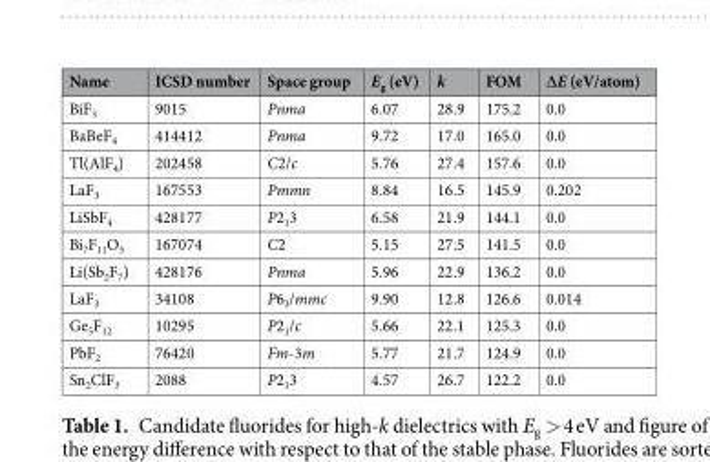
<table><thead><tr><td>Name</td><td>ICSD number</td><td>Space group</td><td>E<sub>g</sub> (eV)</td><td>k</td><td>FOM</td><td>∆E (eV/atom)</td></tr></thead><tbody><tr><td>BiF<sub>3</sub></td><td>9015</td><td>Pnma</td><td>6.07</td><td>28.9</td><td>175.2</td><td>0.0</td></tr><tr><td>BaBeF<sub>4</sub></td><td>414412</td><td>Pnma</td><td>9.72</td><td>17.0</td><td>165.0</td><td>0.0</td></tr><tr><td>Tl(AlF<sub>4</sub>)</td><td>202458</td><td>C2/c</td><td>5.76</td><td>27.4</td><td>157.6</td><td>0.0</td></tr><tr><td>LaF<sub>3</sub></td><td>167553</td><td>Pmmn</td><td>8.84</td><td>16.5</td><td>145.9</td><td>0.202</td></tr><tr><td>LiSbF<sub>4</sub></td><td>428177</td><td>P2<sub>1</sub>3</td><td>6.58</td><td>21.9</td><td>144.1</td><td>0.0</td></tr><tr><td>Bi<sub>7</sub>F<sub>11</sub>O<sub>5</sub></td><td>167074</td><td>C2</td><td>5.15</td><td>27.5</td><td>141.5</td><td>0.0</td></tr><tr><td>Li(Sb<sub>2</sub>F<sub>7</sub>)</td><td>428176</td><td>Pnma</td><td>5.96</td><td>22.9</td><td>136.2</td><td>0.0</td></tr><tr><td>LaF<sub>3</sub></td><td>34108</td><td>P6<sub>3</sub>/mmc</td><td>9.90</td><td>12.8</td><td>126.6</td><td>0.014</td></tr><tr><td>Ge<sub>5</sub>F<sub>12</sub></td><td>10295</td><td>P2<sub>1</sub>/c</td><td>5.66</td><td>22.1</td><td>125.3</td><td>0.0</td></tr><tr><td>PbF<sub>2</sub></td><td>76420</td><td>Fm-3m</td><td>5.77</td><td>21.7</td><td>124.9</td><td>0.0</td></tr><tr><td>Sn<sub>2</sub>ClF<sub>3</sub></td><td>2088</td><td>P2<sub>1</sub>3</td><td>4.57</td><td>26.7</td><td>122.2</td><td>0.0</td></tr></tbody></table>